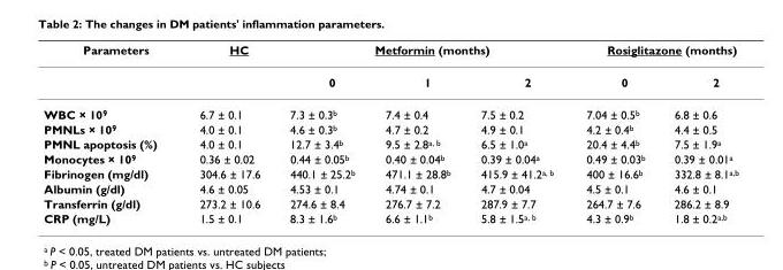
<table><thead><tr><td rowspan="2">Parameters</td><td rowspan="2">HC</td><td colspan="3">Metformin (months)</td><td colspan="2">Rosiglitazone (months)</td></tr><tr><td>0</td><td>1</td><td>2</td><td>0</td><td>2</td></tr></thead><tbody><tr><td>WBC × 10<sup>9</sup></td><td>6.7 ± 0.1</td><td>7.3 ± 0.3<sup>b</sup></td><td>7.4 ± 0.4</td><td>7.5 ± 0.2</td><td>7.04 ± 0.5<sup>b</sup></td><td>6.8 ± 0.6</td></tr><tr><td>PMNLs × 10<sup>9</sup></td><td>4.0 ± 0.1</td><td>4.6 ± 0.3<sup>b</sup></td><td>4.7 ± 0.2</td><td>4.9 ± 0.1</td><td>4.2 ± 0.4<sup>b</sup></td><td>4.4 ± 0.5</td></tr><tr><td>PMNL apoptosis (%)</td><td>4.0 ± 0.1</td><td>12.7 ± 3.4<sup>b</sup></td><td>9.5 ± 2.8<sup>a, b</sup></td><td>6.5 ± 1.0<sup>a</sup></td><td>20.4 ± 4.4<sup>b</sup></td><td>7.5 ± 1.9<sup>a</sup></td></tr><tr><td>Monocytes × 10<sup>9</sup></td><td>0.36 ± 0.02</td><td>0.44 ± 0.05<sup>b</sup></td><td>0.40 ± 0.04<sup>b</sup></td><td>0.39 ± 0.04<sup>a</sup></td><td>0.49 ± 0.03<sup>b</sup></td><td>0.39 ± 0.01<sup>a</sup></td></tr><tr><td>Fibrinogen (mg/dl)</td><td>304.6 ± 17.6</td><td>440.1 ± 25.2<sup>b</sup></td><td>471.1 ± 28.8<sup>b</sup></td><td>415.9 ± 41.2<sup>a, b</sup></td><td>400 ± 16.6<sup>b</sup></td><td>332.8 ± 8.1<sup>a,b</sup></td></tr><tr><td>Albumin (g/dl)</td><td>4.6 ± 0.05</td><td>4.53 ± 0.1</td><td>4.74 ± 0.1</td><td>4.7 ± 0.04</td><td>4.5 ± 0.1</td><td>4.6 ± 0.1</td></tr><tr><td>Transferrin (g/dl)</td><td>273.2 ± 10.6</td><td>274.6 ± 8.4</td><td>276.7 ± 7.2</td><td>287.9 ± 7.7</td><td>264.7 ± 7.6</td><td>286.2 ± 8.9</td></tr><tr><td>CRP (mg/L)</td><td>1.5 ± 0.1</td><td>8.3 ± 1.6<sup>b</sup></td><td>6.6 ± 1.1<sup>b</sup></td><td>5.8 ± 1.5<sup>a, b</sup></td><td>4.3 ± 0.9<sup>b</sup></td><td>1.8 ± 0.2<sup>a,b</sup></td></tr></tbody></table>